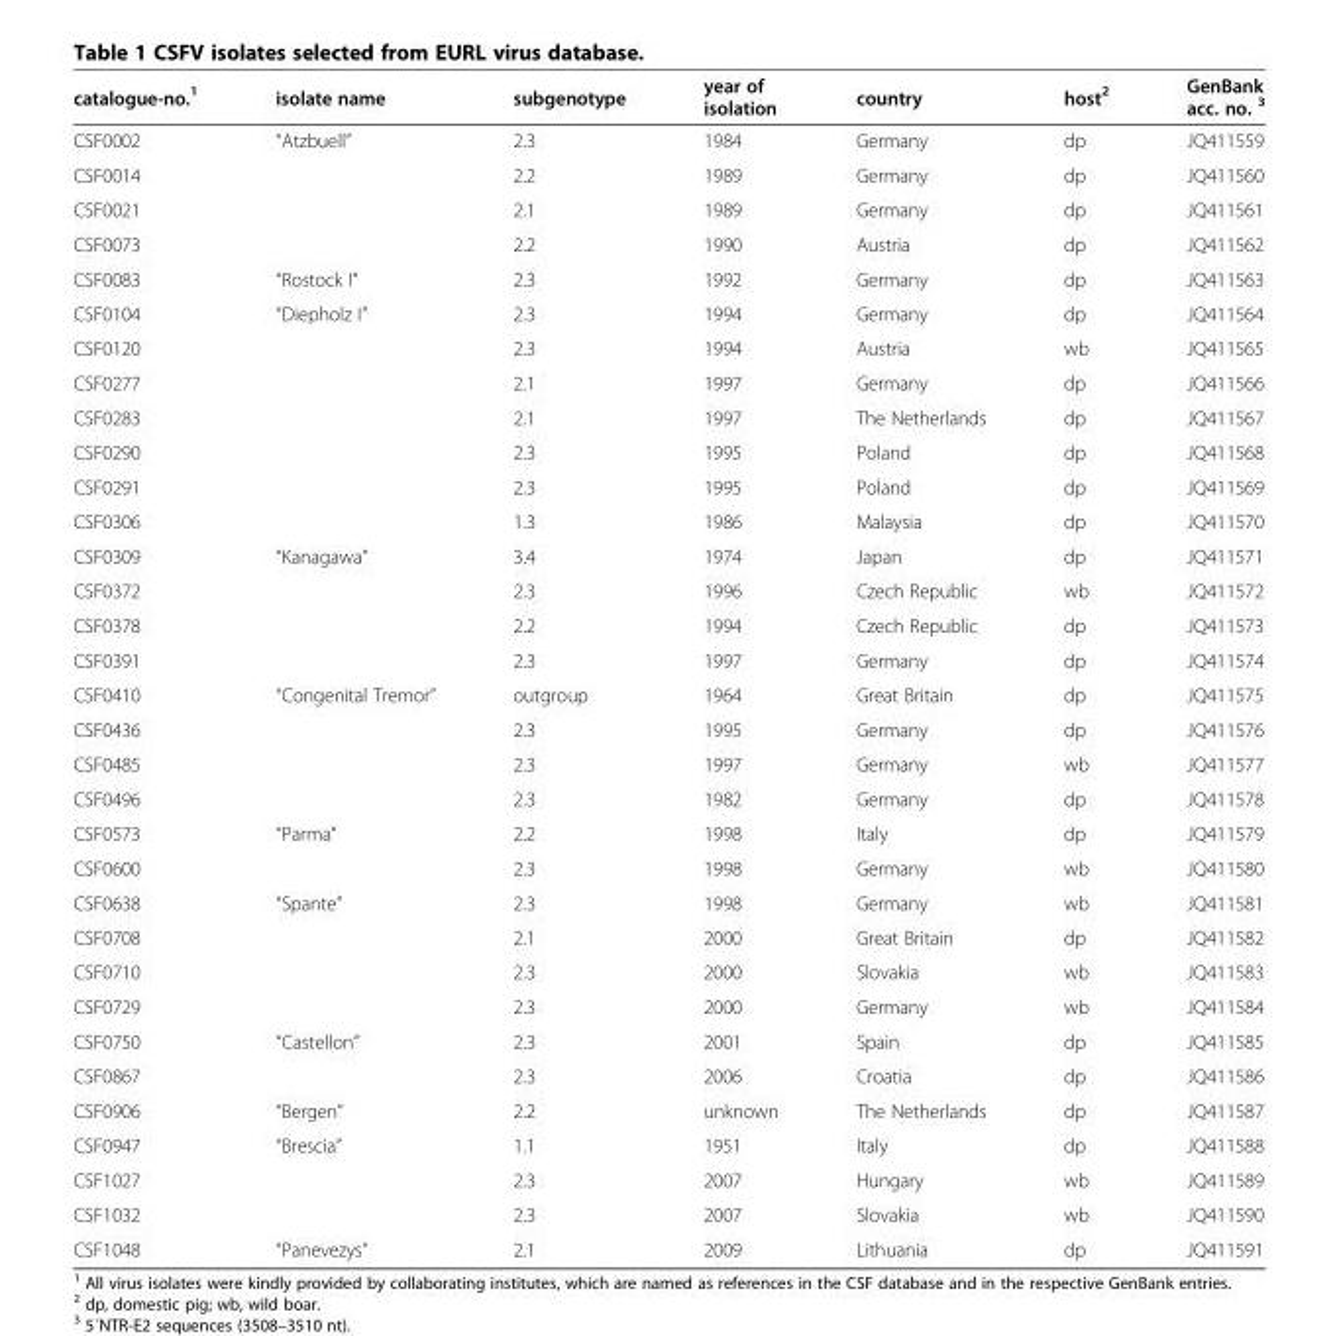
<table><thead><tr><td>catalogue-no.<sup>1</sup></td><td>isolate name</td><td>subgenotype</td><td>year of isolation</td><td>country</td><td>host<sup>2</sup></td><td>GenBank acc. no. <sup>3</sup></td></tr></thead><tbody><tr><td>CSF0002</td><td>“Atzbuell”</td><td>2.3</td><td>1984</td><td>Germany</td><td>dp</td><td>JQ411559</td></tr><tr><td>CSF0014</td><td></td><td>2.2</td><td>1989</td><td>Germany</td><td>dp</td><td>JQ411560</td></tr><tr><td>CSF0021</td><td></td><td>2.1</td><td>1989</td><td>Germany</td><td>dp</td><td>JQ411561</td></tr><tr><td>CSF0073</td><td></td><td>2.2</td><td>1990</td><td>Austria</td><td>dp</td><td>JQ411562</td></tr><tr><td>CSF0083</td><td>“Rostock I”</td><td>2.3</td><td>1992</td><td>Germany</td><td>dp</td><td>JQ411563</td></tr><tr><td>CSF0104</td><td>“Diepholz I”</td><td>2.3</td><td>1994</td><td>Germany</td><td>dp</td><td>JQ411564</td></tr><tr><td>CSF0120</td><td></td><td>2.3</td><td>1994</td><td>Austria</td><td>wb</td><td>JQ411565</td></tr><tr><td>CSF0277</td><td></td><td>2.1</td><td>1997</td><td>Germany</td><td>dp</td><td>JQ411566</td></tr><tr><td>CSF0283</td><td></td><td>2.1</td><td>1997</td><td>The Netherlands</td><td>dp</td><td>JQ411567</td></tr><tr><td>CSF0290</td><td></td><td>2.3</td><td>1995</td><td>Poland</td><td>dp</td><td>JQ411568</td></tr><tr><td>CSF0291</td><td></td><td>2.3</td><td>1995</td><td>Poland</td><td>dp</td><td>JQ411569</td></tr><tr><td>CSF0306</td><td></td><td>1.3</td><td>1986</td><td>Malaysia</td><td>dp</td><td>JQ411570</td></tr><tr><td>CSF0309</td><td>“Kanagawa”</td><td>3.4</td><td>1974</td><td>Japan</td><td>dp</td><td>JQ411571</td></tr><tr><td>CSF0372</td><td></td><td>2.3</td><td>1996</td><td>Czech Republic</td><td>wb</td><td>JQ411572</td></tr><tr><td>CSF0378</td><td></td><td>2.2</td><td>1994</td><td>Czech Republic</td><td>dp</td><td>JQ411573</td></tr><tr><td>CSF0391</td><td></td><td>2.3</td><td>1997</td><td>Germany</td><td>dp</td><td>JQ411574</td></tr><tr><td>CSF0410</td><td>“Congenital Tremor”</td><td>outgroup</td><td>1964</td><td>Great Britain</td><td>dp</td><td>JQ411575</td></tr><tr><td>CSF0436</td><td></td><td>2.3</td><td>1995</td><td>Germany</td><td>dp</td><td>JQ411576</td></tr><tr><td>CSF0485</td><td></td><td>2.3</td><td>1997</td><td>Germany</td><td>wb</td><td>JQ411577</td></tr><tr><td>CSF0496</td><td></td><td>2.3</td><td>1982</td><td>Germany</td><td>dp</td><td>JQ411578</td></tr><tr><td>CSF0573</td><td>“Parma”</td><td>2.2</td><td>1998</td><td>Italy</td><td>dp</td><td>JQ411579</td></tr><tr><td>CSF0600</td><td></td><td>2.3</td><td>1998</td><td>Germany</td><td>wb</td><td>JQ411580</td></tr><tr><td>CSF0638</td><td>“Spante”</td><td>2.3</td><td>1998</td><td>Germany</td><td>wb</td><td>JQ411581</td></tr><tr><td>CSF0708</td><td></td><td>2.1</td><td>2000</td><td>Great Britain</td><td>dp</td><td>JQ411582</td></tr><tr><td>CSF0710</td><td></td><td>2.3</td><td>2000</td><td>Slovakia</td><td>wb</td><td>JQ411583</td></tr><tr><td>CSF0729</td><td></td><td>2.3</td><td>2000</td><td>Germany</td><td>wb</td><td>JQ411584</td></tr><tr><td>CSF0750</td><td>“Castellon”</td><td>2.3</td><td>2001</td><td>Spain</td><td>dp</td><td>JQ411585</td></tr><tr><td>CSF0867</td><td></td><td>2.3</td><td>2006</td><td>Croatia</td><td>dp</td><td>JQ411586</td></tr><tr><td>CSF0906</td><td>“Bergen”</td><td>2.2</td><td>unknown</td><td>The Netherlands</td><td>dp</td><td>JQ411587</td></tr><tr><td>CSF0947</td><td>“Brescia”</td><td>1.1</td><td>1951</td><td>Italy</td><td>dp</td><td>JQ411588</td></tr><tr><td>CSF1027</td><td></td><td>2.3</td><td>2007</td><td>Hungary</td><td>wb</td><td>JQ411589</td></tr><tr><td>CSF1032</td><td></td><td>2.3</td><td>2007</td><td>Slovakia</td><td>wb</td><td>JQ411590</td></tr><tr><td>CSF1048</td><td>“Panevezys”</td><td>2.1</td><td>2009</td><td>Lithuania</td><td>dp</td><td>JQ411591</td></tr></tbody></table>